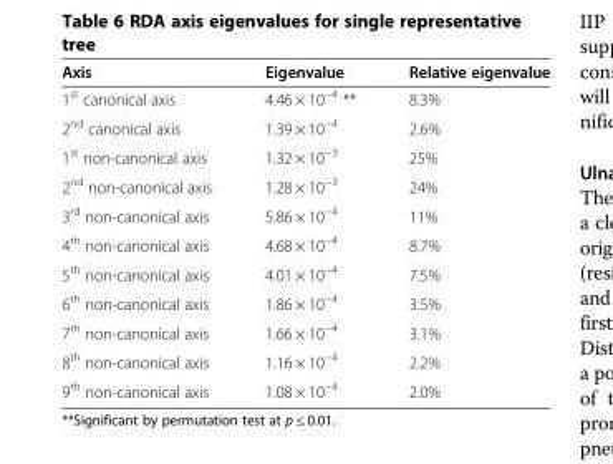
<table><thead><tr><td>Axis</td><td>Eigenvalue</td><td>Relative eigenvalue</td></tr></thead><tbody><tr><td>1<sup>st</sup> canonical axis</td><td>4.46 × 10<sup>−4</sup> **</td><td>8.3%</td></tr><tr><td>2<sup>nd</sup> canonical axis</td><td>1.39 × 10<sup>−4</sup></td><td>2.6%</td></tr><tr><td>1<sup>st</sup> non-canonical axis</td><td>1.32 × 10<sup>−3</sup></td><td>25%</td></tr><tr><td>2<sup>nd</sup> non-canonical axis</td><td>1.28 × 10<sup>−3</sup></td><td>24%</td></tr><tr><td>3<sup>rd</sup> non-canonical axis</td><td>5.86 × 10<sup>−4</sup></td><td>11%</td></tr><tr><td>4<sup>th</sup> non-canonical axis</td><td>4.68 × 10<sup>−4</sup></td><td>8.7%</td></tr><tr><td>5<sup>th</sup> non-canonical axis</td><td>4.01 × 10<sup>−4</sup></td><td>7.5%</td></tr><tr><td>6<sup>th</sup> non-canonical axis</td><td>1.86 × 10<sup>−4</sup></td><td>3.5%</td></tr><tr><td>7<sup>th</sup> non-canonical axis</td><td>1.66 × 10<sup>−4</sup></td><td>3.1%</td></tr><tr><td>8<sup>th</sup> non-canonical axis</td><td>1.16 × 10<sup>−4</sup></td><td>2.2%</td></tr><tr><td>9<sup>th</sup> non-canonical axis</td><td>1.08 × 10<sup>−4</sup></td><td>2.0%</td></tr></tbody></table>